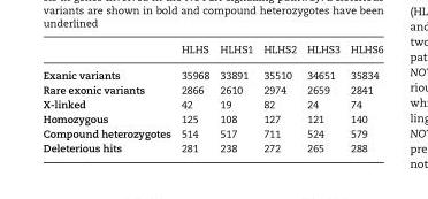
<table><thead><tr><td></td><td>HLHS</td><td>HLHS1</td><td>HLHS2</td><td>HLHS3</td><td>HLHS6</td></tr></thead><tbody><tr><td>Exanic variants</td><td>35968</td><td>33891</td><td>35510</td><td>34651</td><td>35834</td></tr><tr><td>Rare exonic variants</td><td>2866</td><td>2610</td><td>2974</td><td>2659</td><td>2841</td></tr><tr><td>X-linked</td><td>42</td><td>19</td><td>82</td><td>24</td><td>74</td></tr><tr><td>Homozygous</td><td>125</td><td>108</td><td>127</td><td>121</td><td>140</td></tr><tr><td>Compound heterozygotes</td><td>514</td><td>517</td><td>711</td><td>524</td><td>579</td></tr><tr><td>Deleterious hits</td><td>281</td><td>238</td><td>272</td><td>265</td><td>288</td></tr></tbody></table>